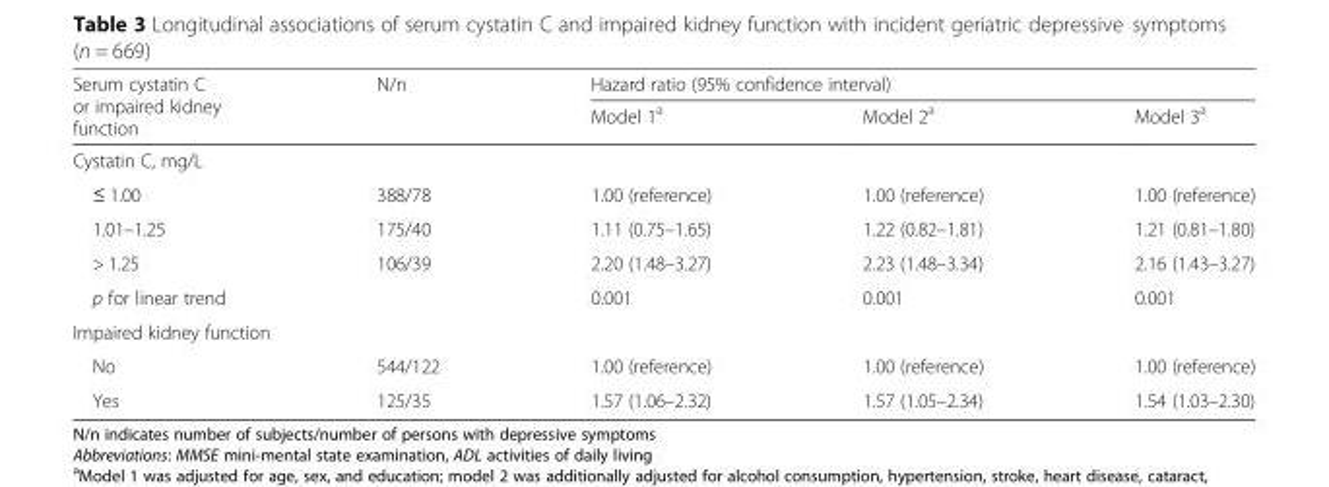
<table><thead><tr><td rowspan="2">Serum cystatin C or impaired kidney function</td><td rowspan="2">N/n</td><td colspan="3">Hazard ratio (95% confidence interval)</td></tr><tr><td>Model 1<sup>a</sup></td><td>Model 2<sup>a</sup></td><td>Model 3<sup>a</sup></td></tr></thead><tbody><tr><td colspan="5">Cystatin C, mg/L</td></tr><tr><td>≤ 1.00</td><td>388/78</td><td>1.00 (reference)</td><td>1.00 (reference)</td><td>1.00 (reference)</td></tr><tr><td>1.01–1.25</td><td>175/40</td><td>1.11 (0.75–1.65)</td><td>1.22 (0.82–1.81)</td><td>1.21 (0.81–1.80)</td></tr><tr><td>&gt; 1.25</td><td>106/39</td><td>2.20 (1.48–3.27)</td><td>2.23 (1.48–3.34)</td><td>2.16 (1.43–3.27)</td></tr><tr><td>p for linear trend</td><td></td><td>0.001</td><td>0.001</td><td>0.001</td></tr><tr><td colspan="5">Impaired kidney function</td></tr><tr><td>No</td><td>544/122</td><td>1.00 (reference)</td><td>1.00 (reference)</td><td>1.00 (reference)</td></tr><tr><td>Yes</td><td>125/35</td><td>1.57 (1.06–2.32)</td><td>1.57 (1.05–2.34)</td><td>1.54 (1.03–2.30)</td></tr></tbody></table>